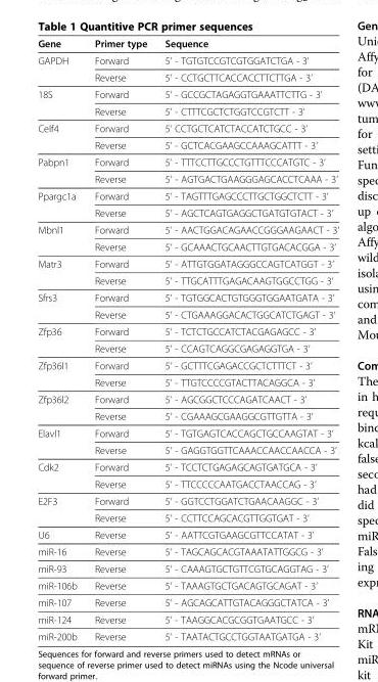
<table><thead><tr><td>Gene</td><td>Primer type</td><td>Sequence</td></tr></thead><tbody><tr><td rowspan="2">GAPDH</td><td>Forward</td><td>5’ - TGTGTCCGTCGTGGATCTGA - 3’</td></tr><tr><td>Reverse</td><td>5’ - CCTGCTTCACCACCTTCTTGA - 3’</td></tr><tr><td rowspan="2">18S</td><td>Forward</td><td>5’ - GCCGCTAGAGGTGAAATTCTTG - 3’</td></tr><tr><td>Reverse</td><td>5’ - CTTTCGCTCTGGTCCGTCTT - 3’</td></tr><tr><td rowspan="2">Celf4</td><td>Forward</td><td>5’ CCTGCTCATCTACCATCTGCC - 3’</td></tr><tr><td>Reverse</td><td>5’ - GCTCACGAAGCCAAAGCATTT - 3’</td></tr><tr><td rowspan="2">Pabpn1</td><td>Forward</td><td>5’ - TTTCCTTGCCCTGTTTCCCATGTC - 3’</td></tr><tr><td>Reverse</td><td>5’ - AGTGACTGAAGGGAGCACCTCAAA - 3’</td></tr><tr><td rowspan="2">Ppargc1a</td><td>Forward</td><td>5’ - TAGTTTGAGCCCTTGCTGGCTCTT - 3’</td></tr><tr><td>Reverse</td><td>5’ - AGCTCAGTGAGGCTGATGTGTACT - 3’</td></tr><tr><td rowspan="2">Mbnl1</td><td>Forward</td><td>5’ - AACTGGACAGAACCGGGAAGAACT - 3’</td></tr><tr><td>Reverse</td><td>5’ - GCAAACTGCAACTTGTGACACGGA - 3’</td></tr><tr><td rowspan="2">Matr3</td><td>Forward</td><td>5’ - ATTGTGGATAGGGCCAGTCATGGT - 3’</td></tr><tr><td>Reverse</td><td>5’ - TTGCATTTGAGACAAGTGGCCTGG - 3’</td></tr><tr><td rowspan="2">Sfrs3</td><td>Forward</td><td>5’ - TGTGGCACTGTGGGTGGAATGATA - 3’</td></tr><tr><td>Reverse</td><td>5’ - CTGAAAGGACACTGGCATCTGAGT - 3’</td></tr><tr><td rowspan="2">Zfp36</td><td>Forward</td><td>5’ - TCTCTGCCATCTACGAGAGCC - 3’</td></tr><tr><td>Reverse</td><td>5’ - CCAGTCAGGCGAGAGGTGA - 3’</td></tr><tr><td rowspan="2">Zfp36l1</td><td>Forward</td><td>5’ - GCTTTCGAGACCGCTCTTTCT - 3’</td></tr><tr><td>Reverse</td><td>5’ - TTGTCCCCGTACTTACAGGCA - 3’</td></tr><tr><td rowspan="2">Zfp36l2</td><td>Forward</td><td>5’ - AGCGGCTCCCAGATCAACT - 3’</td></tr><tr><td>Reverse</td><td>5’ - CGAAAGCGAAGGCGTTGTTA - 3’</td></tr><tr><td rowspan="2">Elavl1</td><td>Forward</td><td>5’ - TGTGAGTCACCAGCTGCCAAGTAT - 3’</td></tr><tr><td>Reverse</td><td>5’ - GAGGTGGTTCAAACCAACCAACCA - 3’</td></tr><tr><td rowspan="2">Cdk2</td><td>Forward</td><td>5’ - TCCTCTGAGAGCAGTGATGCA - 3’</td></tr><tr><td>Reverse</td><td>5’ - TTCCCCCAATGACCTAACCAG - 3’</td></tr><tr><td rowspan="2">E2F3</td><td>Forward</td><td>5’ - GGTCCTGGATCTGAACAAGGC - 3’</td></tr><tr><td>Reverse</td><td>5’ - CCTTCCAGCACGTTGGTGAT - 3’</td></tr><tr><td>U6</td><td>Reverse</td><td>5’ - AATTCGTGAAGCGTTCCATAT - 3’</td></tr><tr><td>miR-16</td><td>Reverse</td><td>5’ - TAGCAGCACGTAAATATTGGCG - 3’</td></tr><tr><td>miR-93</td><td>Reverse</td><td>5’ - CAAAGTGCTGTTCGTGCAGGTAG - 3’</td></tr><tr><td>miR-106b</td><td>Reverse</td><td>5’ - TAAAGTGCTGACAGTGCAGAT - 3’</td></tr><tr><td>miR-107</td><td>Reverse</td><td>5’ - AGCAGCATTGTACAGGGCTATCA - 3’</td></tr><tr><td>miR-124</td><td>Reverse</td><td>5’ - TAAGGCACGCGGTGAATGCC - 3’</td></tr><tr><td>miR-200b</td><td>Reverse</td><td>5’ - TAATACTGCCTGGTAATGATGA - 3’</td></tr></tbody></table>